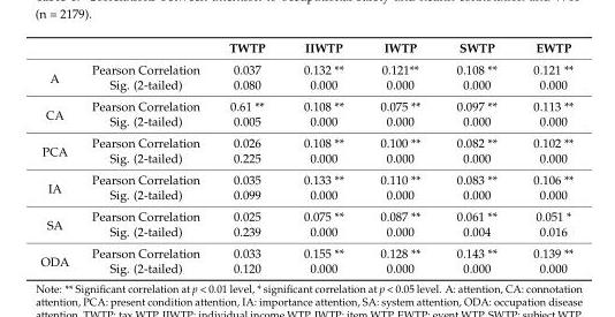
<table><thead><tr><td></td><td></td><td>TWTP</td><td>IIWTP</td><td>IWTP</td><td>SWTP</td><td>EWTP</td></tr></thead><tbody><tr><td rowspan="2">A</td><td>Pearson Correlation</td><td>0.037</td><td>0.132 **</td><td>0.121**</td><td>0.108 **</td><td>0.121 **</td></tr><tr><td>Sig. (2-tailed)</td><td>0.080</td><td>0.000</td><td>0.000</td><td>0.000</td><td>0.000</td></tr><tr><td rowspan="2">CA</td><td>Pearson Correlation</td><td>0.61 **</td><td>0.108 **</td><td>0.075 **</td><td>0.097 **</td><td>0.113 **</td></tr><tr><td>Sig. (2-tailed)</td><td>0.005</td><td>0.000</td><td>0.000</td><td>0.000</td><td>0.000</td></tr><tr><td rowspan="2">PCA</td><td>Pearson Correlation</td><td>0.026</td><td>0.108 **</td><td>0.100 **</td><td>0.082 **</td><td>0.102 **</td></tr><tr><td>Sig. (2-tailed)</td><td>0.225</td><td>0.000</td><td>0.000</td><td>0.000</td><td>0.000</td></tr><tr><td rowspan="2">IA</td><td>Pearson Correlation</td><td>0.035</td><td>0.133 **</td><td>0.110 **</td><td>0.083 **</td><td>0.106 **</td></tr><tr><td>Sig. (2-tailed)</td><td>0.099</td><td>0.000</td><td>0.000</td><td>0.000</td><td>0.000</td></tr><tr><td rowspan="2">SA</td><td>Pearson Correlation</td><td>0.025</td><td>0.075 **</td><td>0.087 **</td><td>0.061 **</td><td>0.051 *</td></tr><tr><td>Sig. (2-tailed)</td><td>0.239</td><td>0.000</td><td>0.000</td><td>0.004</td><td>0.016</td></tr><tr><td rowspan="2">ODA</td><td>Pearson Correlation</td><td>0.033</td><td>0.155 **</td><td>0.128 **</td><td>0.143 **</td><td>0.139 **</td></tr><tr><td>Sig. (2-tailed)</td><td>0.120</td><td>0.000</td><td>0.000</td><td>0.000</td><td>0.000</td></tr></tbody></table>